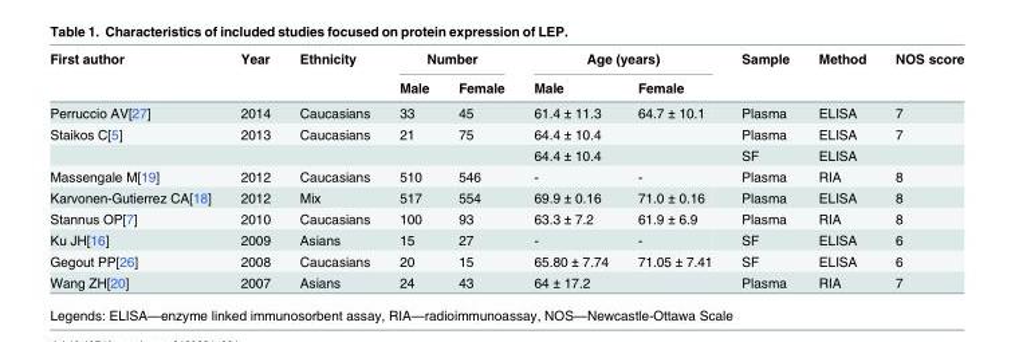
<table><thead><tr><td rowspan="2">First author</td><td rowspan="2">Year</td><td rowspan="2">Ethnicity</td><td colspan="2">Number</td><td colspan="2">Age (years)</td><td rowspan="2">Sample</td><td rowspan="2">Method</td><td rowspan="2">NOS score</td></tr><tr><td>Male</td><td>Female</td><td>Male</td><td>Female</td></tr></thead><tbody><tr><td>Perruccio AV[27]</td><td>2014</td><td>Caucasians</td><td>33</td><td>45</td><td>61.4 ± 11.3</td><td>64.7 ± 10.1</td><td>Plasma</td><td>ELISA</td><td>7</td></tr><tr><td rowspan="2">Staikos C[5]</td><td>2013</td><td>Caucasians</td><td>21</td><td>75</td><td colspan="2">64.4 ± 10.4</td><td>Plasma</td><td>ELISA</td><td>7</td></tr><tr><td></td><td></td><td></td><td></td><td colspan="2">64.4 ± 10.4</td><td>SF</td><td>ELISA</td><td></td></tr><tr><td>Massengale M[19]</td><td>2012</td><td>Caucasians</td><td>510</td><td>546</td><td>-</td><td>-</td><td>Plasma</td><td>RIA</td><td>8</td></tr><tr><td>Karvonen-Gutierrez CA[18]</td><td>2012</td><td>Mix</td><td>517</td><td>554</td><td>69.9 ± 0.16</td><td>71.0 ± 0.16</td><td>Plasma</td><td>ELISA</td><td>8</td></tr><tr><td>Stannus OP[7]</td><td>2010</td><td>Caucasians</td><td>100</td><td>93</td><td>63.3 ± 7.2</td><td>61.9 ± 6.9</td><td>Plasma</td><td>RIA</td><td>8</td></tr><tr><td>Ku JH[16]</td><td>2009</td><td>Asians</td><td>15</td><td>27</td><td>-</td><td>-</td><td>SF</td><td>ELISA</td><td>6</td></tr><tr><td>Gegout PP[26]</td><td>2008</td><td>Caucasians</td><td>20</td><td>15</td><td>65.80 ± 7.74</td><td>71.05 ± 7.41</td><td>SF</td><td>ELISA</td><td>6</td></tr><tr><td>Wang ZH[20]</td><td>2007</td><td>Asians</td><td>24</td><td>43</td><td colspan="2">64 ± 17.2</td><td>Plasma</td><td>RIA</td><td>7</td></tr></tbody></table>